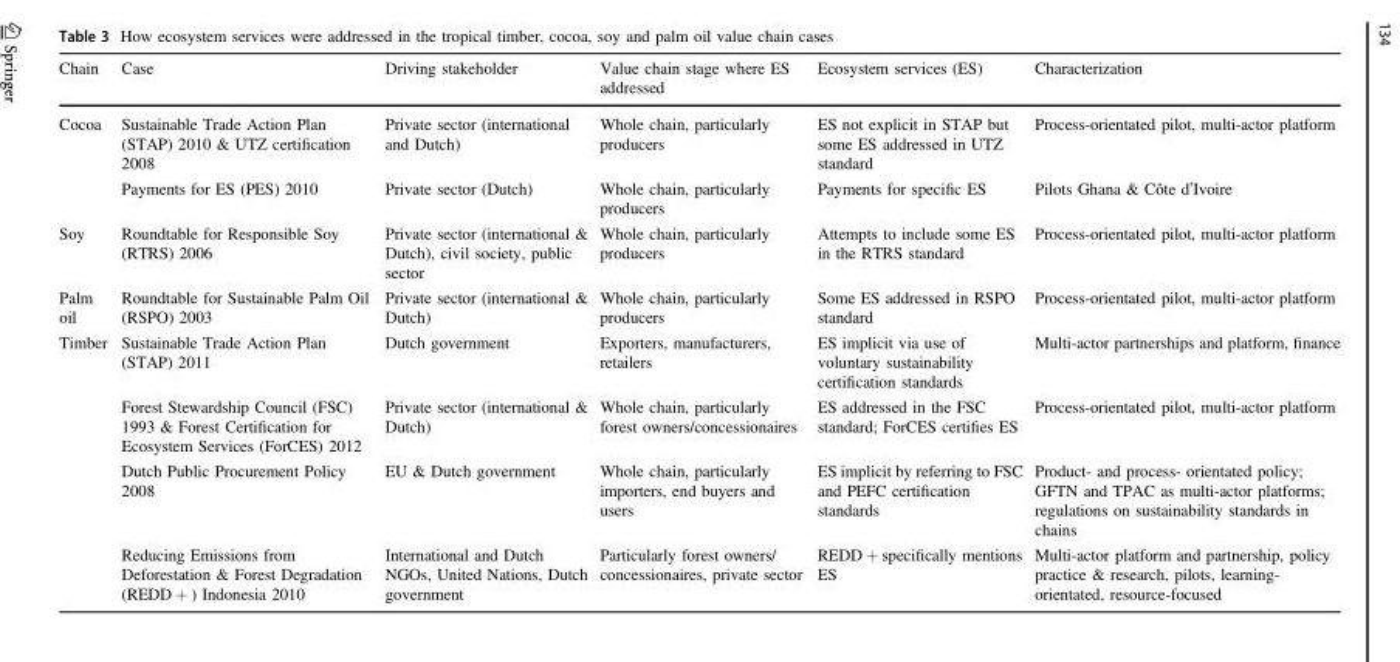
<table><thead><tr><td>Chain</td><td>Case</td><td>Driving stakeholder</td><td>Value chain stage where ES addressed</td><td>Ecosystem services (ES)</td><td>Characterization</td></tr></thead><tbody><tr><td rowspan="2">Cocoa</td><td>Sustainable Trade Action Plan (STAP) 2010 &amp; UTZ certification 2008</td><td>Private sector (international and Dutch)</td><td>Whole chain, particularly producers</td><td>ES not explicit in STAP but some ES addressed in UTZ standard</td><td>Process-orientated pilot, multi-actor platform</td></tr><tr><td>Payments for ES (PES) 2010</td><td>Private sector (Dutch)</td><td>Whole chain, particularly producers</td><td>Payments for specific ES</td><td>Pilots Ghana &amp; Côte d’Ivoire</td></tr><tr><td>Soy</td><td>Roundtable for Responsible Soy (RTRS) 2006</td><td>Private sector (international &amp; Dutch), civil society, public sector</td><td>Whole chain, particularly producers</td><td>Attempts to include some ES in the RTRS standard</td><td>Process-orientated pilot, multi-actor platform</td></tr><tr><td>Palm oil</td><td>Roundtable for Sustainable Palm Oil (RSPO) 2003</td><td>Private sector (international &amp; Dutch)</td><td>Whole chain, particularly producers</td><td>Some ES addressed in RSPO standard</td><td>Process-orientated pilot, multi-actor platform</td></tr><tr><td rowspan="4">Timber</td><td>Sustainable Trade Action Plan (STAP) 2011</td><td>Dutch government</td><td>Exporters, manufacturers, retailers</td><td>ES implicit via use of voluntary sustainability certification standards</td><td>Multi-actor partnerships and platform, finance</td></tr><tr><td>Forest Stewardship Council (FSC) 1993 &amp; Forest Certification for Ecosystem Services (ForCES) 2012</td><td>Private sector (international &amp; Dutch)</td><td>Whole chain, particularly forest owners/concessionaires</td><td>ES addressed in the FSC standard; ForCES certifies ES</td><td>Process-orientated pilot, multi-actor platform</td></tr><tr><td>Dutch Public Procurement Policy 2008</td><td>EU &amp; Dutch government</td><td>Whole chain, particularly importers, end buyers and users</td><td>ES implicit by referring to FSC and PEFC certification standards</td><td>Product- and process- orientated policy; GFTN and TPAC as multi-actor platforms; regulations on sustainability standards in chains</td></tr><tr><td>Reducing Emissions from Deforestation &amp; Forest Degradation (REDD + ) Indonesia 2010</td><td>International and Dutch NGOs, United Nations, Dutch government</td><td>Particularly forest owners/ concessionaires, private sector</td><td>REDD + specifically mentions ES</td><td>Multi-actor platform and partnership, policy practice &amp; research, pilots, learning- orientated, resource-focused</td></tr></tbody></table>